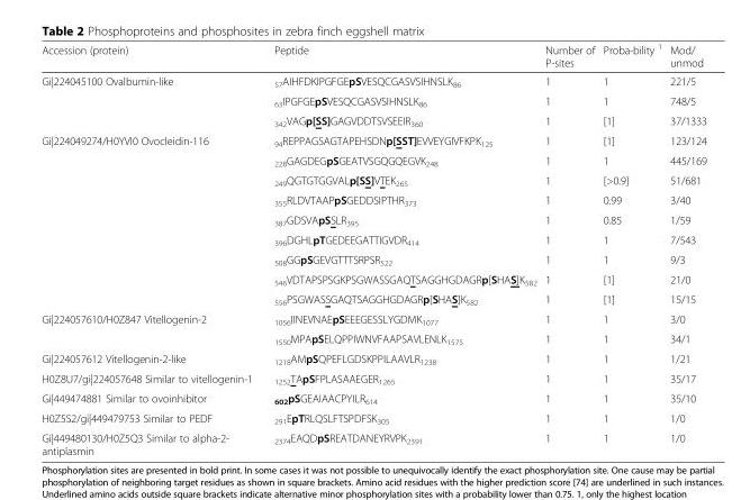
<table><thead><tr><td>Accession (protein)</td><td>Peptide</td><td>Number of P-sites</td><td>Proba-bility <sup>1</sup></td><td>Mod/ unmod</td></tr></thead><tbody><tr><td rowspan="3">Gi|224045100 Ovalbumin-like</td><td><sub>57</sub>AIHFDKIPGFGEpSVESQCGASVSIHNSLK<sub>86</sub></td><td>1</td><td>1</td><td>221/5</td></tr><tr><td><sub>63</sub>IPGFGEpSVESQCGASVSIHNSLK<sub>86</sub></td><td>1</td><td>1</td><td>748/5</td></tr><tr><td><sub>342</sub>VAGp[SS]GAGVDDTSVSEEIR<sub>360</sub></td><td>1</td><td>[1]</td><td>37/1333</td></tr><tr><td rowspan="9">Gi|224049274/H0YVI0 Ovocleidin-116</td><td><sub>94</sub>REPPAGSAGTAPEHSDNp[SST]EVVEYGIVFKPK<sub>125</sub></td><td>1</td><td>[1]</td><td>123/124</td></tr><tr><td><sub>228</sub>GAGDEGpSGEATVSGQGQEGVK<sub>248</sub></td><td>1</td><td>1</td><td>445/169</td></tr><tr><td><sub>249</sub>QGTGTGGVALp[SS]VTEK<sub>265</sub></td><td>1</td><td>[&gt;0.9]</td><td>51/681</td></tr><tr><td><sub>355</sub>RLDVTAAPpSGEDDSIPTHR<sub>373</sub></td><td>1</td><td>0.99</td><td>3/40</td></tr><tr><td><sub>387</sub>GDSVApSSLR<sub>395</sub></td><td>1</td><td>0.85</td><td>1/59</td></tr><tr><td><sub>396</sub>DGHLpTGEDEEGATTIGVDR<sub>414</sub></td><td>1</td><td>1</td><td>7/543</td></tr><tr><td><sub>508</sub>GGpSGEVGTTTSRPSR<sub>522</sub></td><td>1</td><td>1</td><td>9/3</td></tr><tr><td><sub>546</sub>VDTAPSPSGKPSGWASSGAQTSAGGHGDAGRp[SHAS]K<sub>582</sub></td><td>1</td><td>[1]</td><td>21/0</td></tr><tr><td><sub>556</sub>PSGWASSGAQTSAGGHGDAGRp[SHAS]K<sub>582</sub></td><td>1</td><td>[1]</td><td>15/15</td></tr><tr><td rowspan="2">Gi|224057610/H0Z847 Vitellogenin-2</td><td><sub>1056</sub>IINEVNAEpSEEEGESSLYGDMK<sub>1077</sub></td><td>1</td><td>1</td><td>3/0</td></tr><tr><td><sub>1550</sub>MPApSELQPPIWNVFAAPSAVLENLK<sub>1575</sub></td><td>1</td><td>1</td><td>34/1</td></tr><tr><td>Gi|224057612 Vitellogenin-2-like</td><td><sub>1218</sub>AMpSQPEFLGDSKPPILAAVLR<sub>1238</sub></td><td>1</td><td>1</td><td>1/21</td></tr><tr><td>H0Z8U7/gi|224057648 Similar to vitellogenin-1</td><td><sub>1252</sub>TApSFPLASAAEGER<sub>1265</sub></td><td>1</td><td>1</td><td>35/17</td></tr><tr><td>Gi|449474881 Similar to ovoinhibitor</td><td><sub>602</sub>pSGEAIAACPYILR<sub>614</sub></td><td>1</td><td>1</td><td>35/10</td></tr><tr><td>H0Z5S2/gi|449479753 Similar to PEDF</td><td><sub>291</sub>EpTRLQSLFTSPDFSK<sub>305</sub></td><td>1</td><td>1</td><td>1/0</td></tr><tr><td>Gi|449480130/H0Z5Q3 Similar to alpha-2- antiplasmin</td><td><sub>2374</sub>EAQDpSREATDANEYRVPK<sub>2391</sub></td><td>1</td><td>1</td><td>1/0</td></tr></tbody></table>